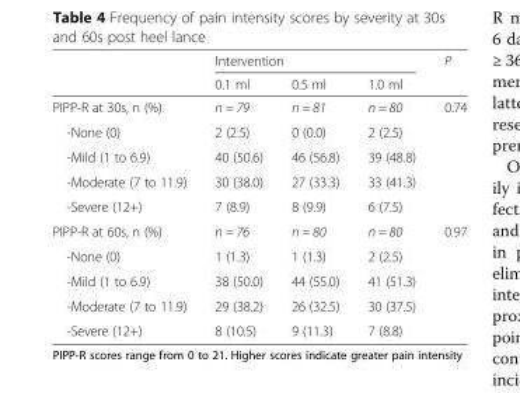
<table><thead><tr><td rowspan="2"></td><td colspan="3">Intervention</td><td rowspan="2">P</td></tr><tr><td>0.1 ml</td><td>0.5 ml</td><td>1.0 ml</td></tr></thead><tbody><tr><td>PIPP-R at 30s, n (%)</td><td>n = 79</td><td>n = 81</td><td>n = 80</td><td>0.74</td></tr><tr><td>-None (0)</td><td>2 (2.5)</td><td>0 (0.0)</td><td>2 (2.5)</td><td></td></tr><tr><td>-Mild (1 to 6.9)</td><td>40 (50.6)</td><td>46 (56.8)</td><td>39 (48.8)</td><td></td></tr><tr><td>-Moderate (7 to 11.9)</td><td>30 (38.0)</td><td>27 (33.3)</td><td>33 (41.3)</td><td></td></tr><tr><td>-Severe (12+)</td><td>7 (8.9)</td><td>8 (9.9)</td><td>6 (7.5)</td><td></td></tr><tr><td>PIPP-R at 60s, n (%)</td><td>n = 76</td><td>n = 80</td><td>n = 80</td><td>0.97</td></tr><tr><td>-None (0)</td><td>1 (1.3)</td><td>1 (1.3)</td><td>2 (2.5)</td><td></td></tr><tr><td>-Mild (1 to 6.9)</td><td>38 (50.0)</td><td>44 (55.0)</td><td>41 (51.3)</td><td></td></tr><tr><td>-Moderate (7 to 11.9)</td><td>29 (38.2)</td><td>26 (32.5)</td><td>30 (37.5)</td><td></td></tr><tr><td>-Severe (12+)</td><td>8 (10.5)</td><td>9 (11.3)</td><td>7 (8.8)</td><td></td></tr></tbody></table>